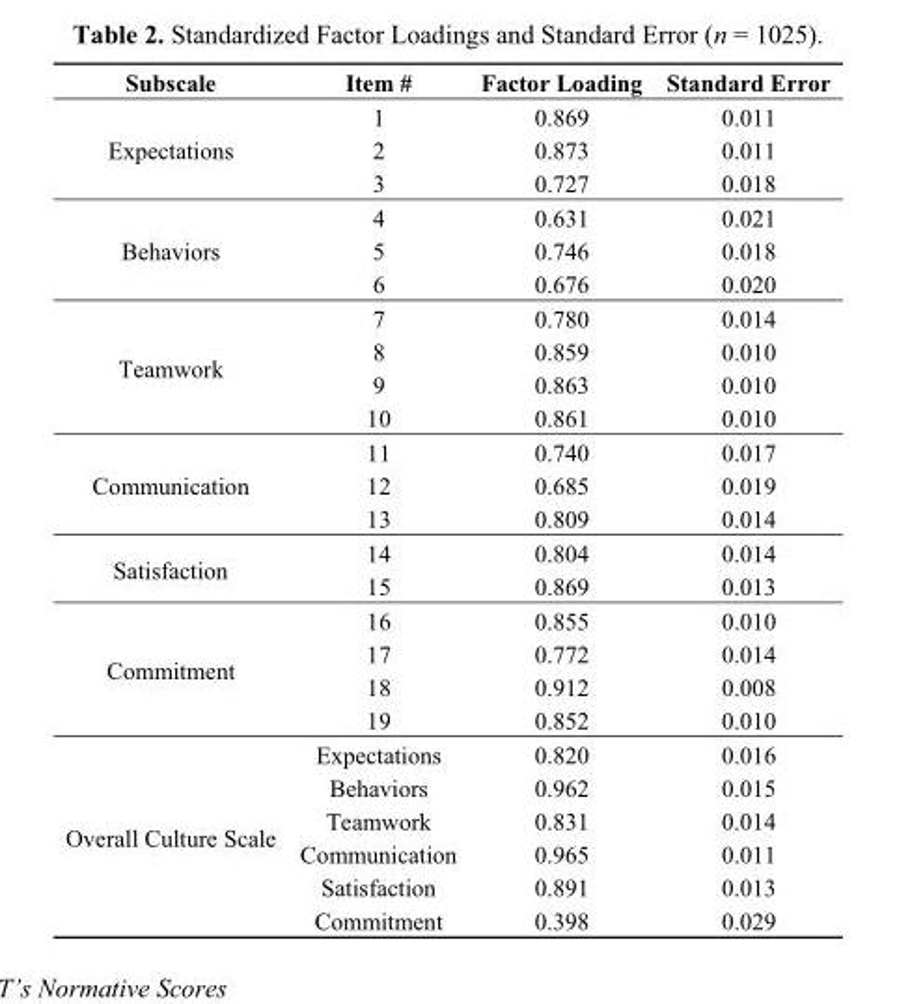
<table><thead><tr><td>Subscale</td><td>Item #</td><td>Factor Loading</td><td>Standard Error</td></tr></thead><tbody><tr><td rowspan="3">Expectations</td><td>1</td><td>0.869</td><td>0.011</td></tr><tr><td>2</td><td>0.873</td><td>0.011</td></tr><tr><td>3</td><td>0.727</td><td>0.018</td></tr><tr><td rowspan="3">Behaviors</td><td>4</td><td>0.631</td><td>0.021</td></tr><tr><td>5</td><td>0.746</td><td>0.018</td></tr><tr><td>6</td><td>0.676</td><td>0.020</td></tr><tr><td rowspan="4">Teamwork</td><td>7</td><td>0.780</td><td>0.014</td></tr><tr><td>8</td><td>0.859</td><td>0.010</td></tr><tr><td>9</td><td>0.863</td><td>0.010</td></tr><tr><td>10</td><td>0.861</td><td>0.010</td></tr><tr><td rowspan="3">Communication</td><td>11</td><td>0.740</td><td>0.017</td></tr><tr><td>12</td><td>0.685</td><td>0.019</td></tr><tr><td>13</td><td>0.809</td><td>0.014</td></tr><tr><td rowspan="2">Satisfaction</td><td>14</td><td>0.804</td><td>0.014</td></tr><tr><td>15</td><td>0.869</td><td>0.013</td></tr><tr><td rowspan="4">Commitment</td><td>16</td><td>0.855</td><td>0.010</td></tr><tr><td>17</td><td>0.772</td><td>0.014</td></tr><tr><td>18</td><td>0.912</td><td>0.008</td></tr><tr><td>19</td><td>0.852</td><td>0.010</td></tr><tr><td rowspan="6">Overall Culture Scale</td><td>Expectations</td><td>0.820</td><td>0.016</td></tr><tr><td>Behaviors</td><td>0.962</td><td>0.015</td></tr><tr><td>Teamwork</td><td>0.831</td><td>0.014</td></tr><tr><td>Communication</td><td>0.965</td><td>0.011</td></tr><tr><td>Satisfaction</td><td>0.891</td><td>0.013</td></tr><tr><td>Commitment</td><td>0.398</td><td>0.029</td></tr></tbody></table>